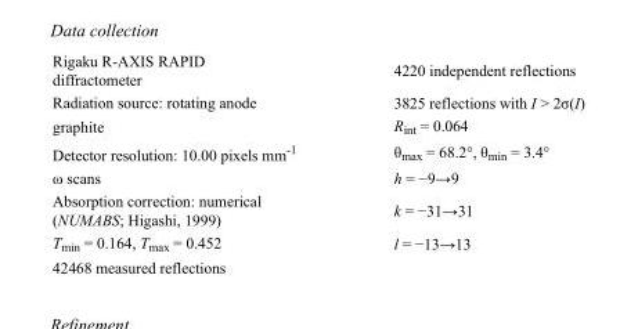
<table><tbody><tr><td>Rigaku R-AXIS RAPID diffractometer</td><td>4220 independent reflections</td></tr><tr><td>Radiation source: rotating anode</td><td>3825 reflections with I &gt; 2σ(I)</td></tr><tr><td>graphite</td><td>R<sub>int</sub> = 0.064</td></tr><tr><td>Detector resolution: 10.00 pixels mm<sup>-1</sup></td><td>θ<sub>max</sub> = 68.2°, θ<sub>min</sub> = 3.4°</td></tr><tr><td>ω scans</td><td>h = −9→9</td></tr><tr><td>Absorption correction: numerical (NUMABS; Higashi, 1999)</td><td>k = −31→31</td></tr><tr><td>T<sub>min</sub> = 0.164, T<sub>max</sub> = 0.452</td><td>l = −13→13</td></tr><tr><td>42468 measured reflections</td><td></td></tr></tbody></table>